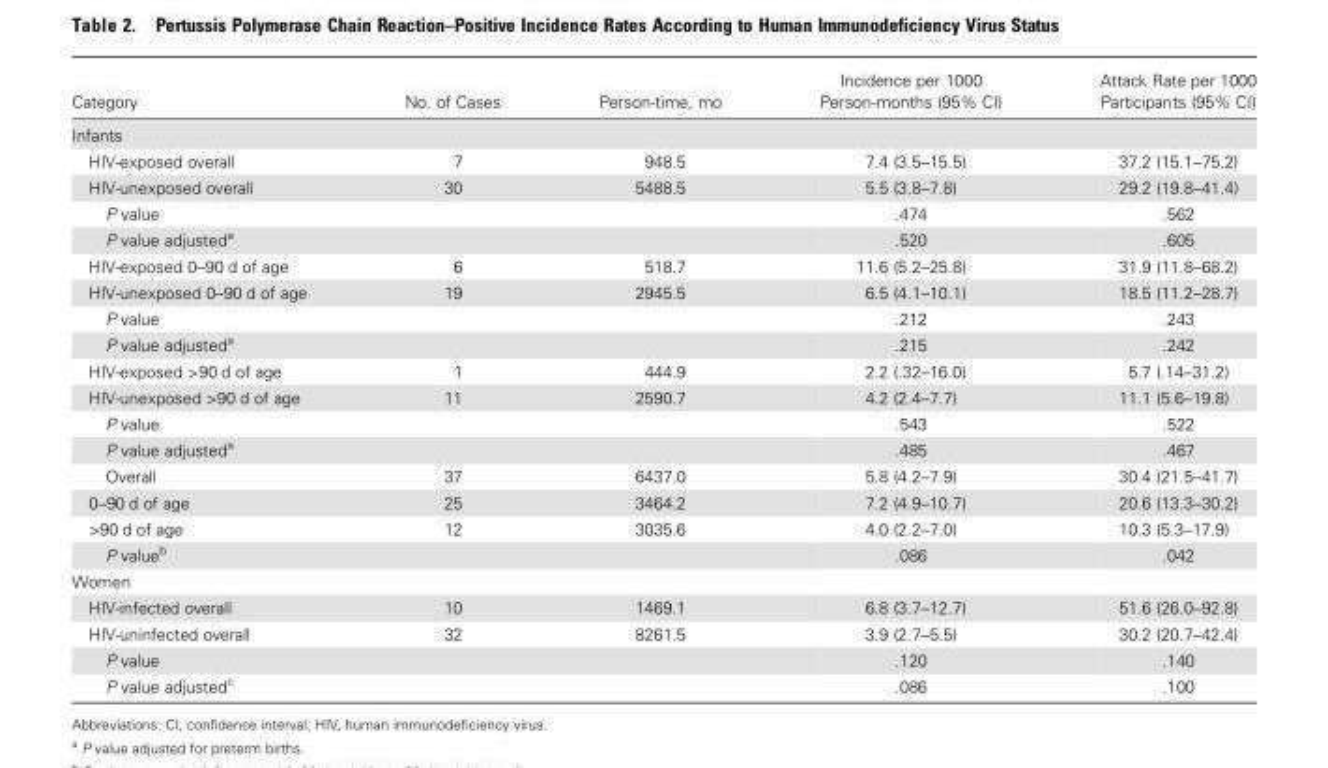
<table><thead><tr><td>Category</td><td>No. of Cases</td><td>Person-time, mo</td><td>Incidence per 1000 Person-months (95% CI)</td><td>Attack Rate per 1000 Participants (95% CI)</td></tr></thead><tbody><tr><td colspan="5">Infants</td></tr><tr><td>HIV-exposed overall</td><td>7</td><td>948.5</td><td>7.4 (3.5–15.5)</td><td>37.2 (15.1–75.2)</td></tr><tr><td>HIV-unexposed overall</td><td>30</td><td>5488.5</td><td>5.5 (3.8–7.8)</td><td>29.2 (19.8–41.4)</td></tr><tr><td>P value</td><td></td><td></td><td>.474</td><td>.562</td></tr><tr><td>P value adjusted<sup>a</sup></td><td></td><td></td><td>.520</td><td>.605</td></tr><tr><td>HIV-exposed 0–90 d of age</td><td>6</td><td>518.7</td><td>11.6 (5.2–25.8)</td><td>31.9 (11.8–68.2)</td></tr><tr><td>HIV-unexposed 0–90 d of age</td><td>19</td><td>2945.5</td><td>6.5 (4.1–10.1)</td><td>18.5 (11.2–28.7)</td></tr><tr><td>P value</td><td></td><td></td><td>.212</td><td>.243</td></tr><tr><td>P value adjusted<sup>a</sup></td><td></td><td></td><td>.215</td><td>.242</td></tr><tr><td>HIV-exposed &gt;90 d of age</td><td>1</td><td>444.9</td><td>2.2 (.32–16.0)</td><td>5.7 (.14–31.2)</td></tr><tr><td>HIV-unexposed &gt;90 d of age</td><td>11</td><td>2590.7</td><td>4.2 (2.4–7.7)</td><td>11.1 (5.6–19.8)</td></tr><tr><td>P value</td><td></td><td></td><td>.543</td><td>.522</td></tr><tr><td>P value adjusted<sup>a</sup></td><td></td><td></td><td>.485</td><td>.467</td></tr><tr><td>Overall</td><td>37</td><td>6437.0</td><td>5.8 (4.2–7.9)</td><td>30.4 (21.5–41.7)</td></tr><tr><td>0–90 d of age</td><td>25</td><td>3464.2</td><td>7.2 (4.9–10.7)</td><td>20.6 (13.3–30.2)</td></tr><tr><td>&gt;90 d of age</td><td>12</td><td>3035.6</td><td>4.0 (2.2–7.0)</td><td>10.3 (5.3–17.9)</td></tr><tr><td>P value<sup>b</sup></td><td></td><td></td><td>.086</td><td>.042</td></tr><tr><td colspan="5">Women</td></tr><tr><td>HIV-infected overall</td><td>10</td><td>1469.1</td><td>6.8 (3.7–12.7)</td><td>51.6 (26.0–92.8)</td></tr><tr><td>HIV-uninfected overall</td><td>32</td><td>8261.5</td><td>3.9 (2.7–5.5)</td><td>30.2 (20.7–42.4)</td></tr><tr><td>P value</td><td></td><td></td><td>.120</td><td>.140</td></tr><tr><td>P value adjusted<sup>c</sup></td><td></td><td></td><td>.086</td><td>.100</td></tr></tbody></table>